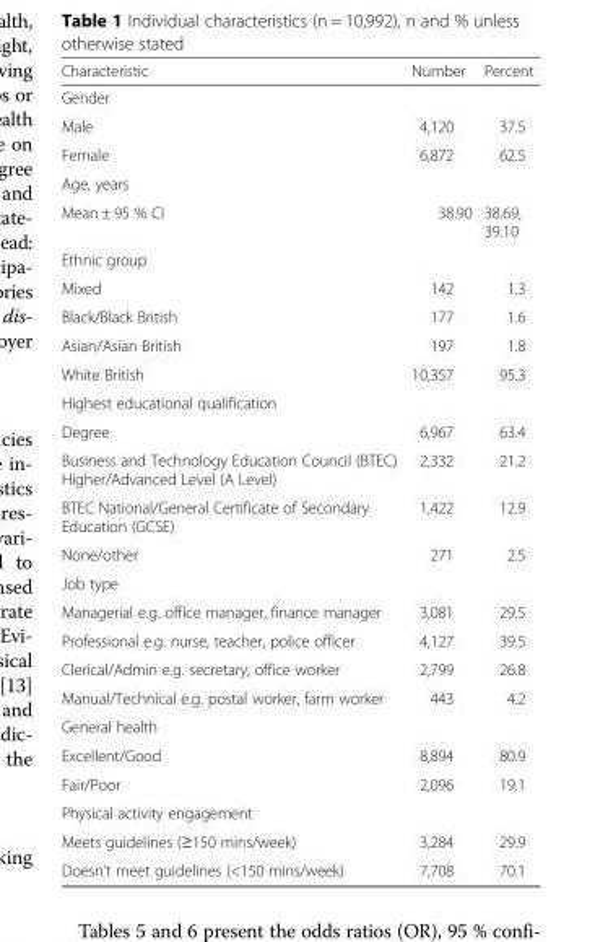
<table><thead><tr><td>Characteristic</td><td>Number</td><td>Percent</td></tr></thead><tbody><tr><td colspan="3">Gender</td></tr><tr><td>Male</td><td>4,120</td><td>37.5</td></tr><tr><td>Female</td><td>6,872</td><td>62.5</td></tr><tr><td colspan="3">Age, years</td></tr><tr><td>Mean ± 95 % CI</td><td>38.90</td><td>38.69, 39.10</td></tr><tr><td colspan="3">Ethnic group</td></tr><tr><td>Mixed</td><td>142</td><td>1.3</td></tr><tr><td>Black/Black British</td><td>177</td><td>1.6</td></tr><tr><td>Asian/Asian British</td><td>197</td><td>1.8</td></tr><tr><td>White British</td><td>10,357</td><td>95.3</td></tr><tr><td colspan="3">Highest educational qualification</td></tr><tr><td>Degree</td><td>6,967</td><td>63.4</td></tr><tr><td>Business and Technology Education Council (BTEC) Higher/Advanced Level (A Level)</td><td>2,332</td><td>21.2</td></tr><tr><td>BTEC National/General Certificate of Secondary Education (GCSE)</td><td>1,422</td><td>12.9</td></tr><tr><td>None/other</td><td>271</td><td>2.5</td></tr><tr><td colspan="3">Job type</td></tr><tr><td>Managerial e.g. office manager, finance manager</td><td>3,081</td><td>29.5</td></tr><tr><td>Professional e.g. nurse, teacher, police officer</td><td>4,127</td><td>39.5</td></tr><tr><td>Clerical/Admin e.g. secretary, office worker</td><td>2,799</td><td>26.8</td></tr><tr><td>Manual/Technical e.g. postal worker, farm worker</td><td>443</td><td>4.2</td></tr><tr><td colspan="3">General health</td></tr><tr><td>Excellent/Good</td><td>8,894</td><td>80.9</td></tr><tr><td>Fair/Poor</td><td>2,096</td><td>19.1</td></tr><tr><td colspan="3">Physical activity engagement</td></tr><tr><td>Meets guidelines (≥150 mins/week)</td><td>3,284</td><td>29.9</td></tr><tr><td>Doesn’t meet guidelines (&lt;150 mins/week)</td><td>7,708</td><td>70.1</td></tr></tbody></table>